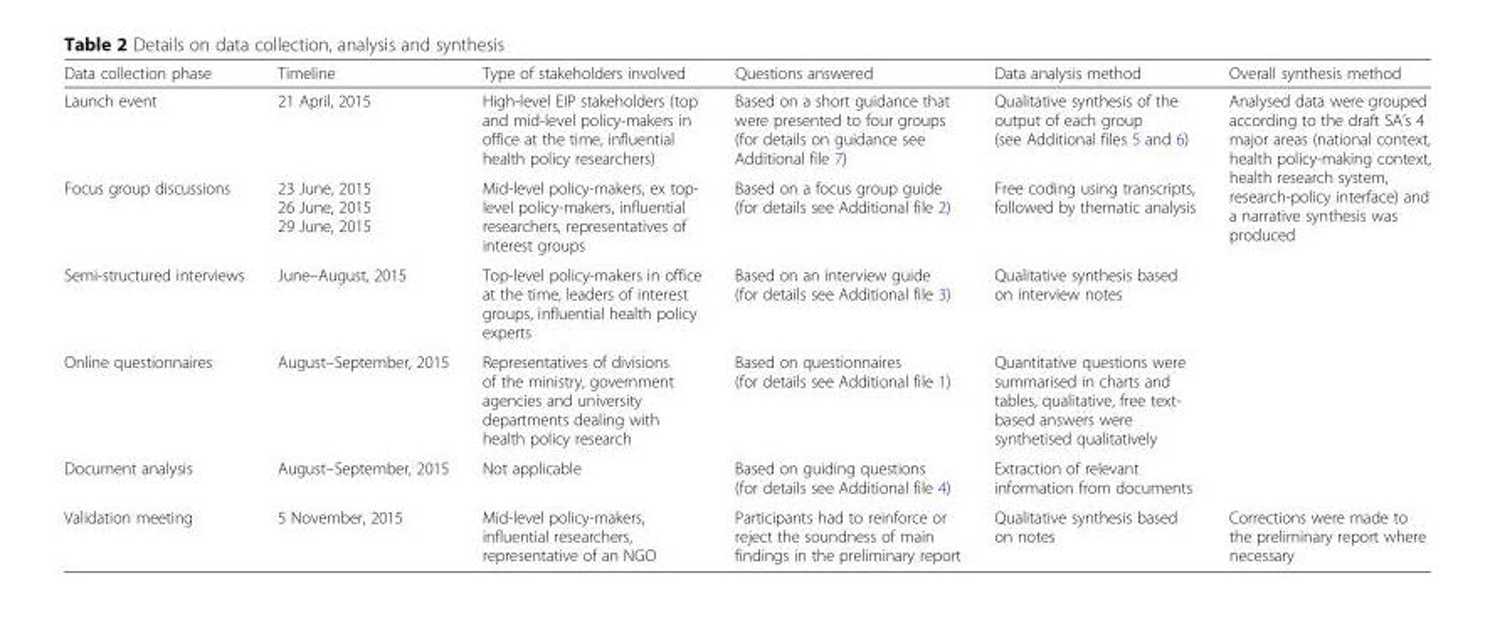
<table><thead><tr><td>Data collection phase</td><td>Timeline</td><td>Type of stakeholders involved</td><td>Questions answered</td><td>Data analysis method</td><td>Overall synthesis method</td></tr></thead><tbody><tr><td>Launch event</td><td>21 April, 2015</td><td>High-level EIP stakeholders (top and mid-level policy-makers in office at the time, influential health policy researchers)</td><td>Based on a short guidance that were presented to four groups (for details on guidance see Additional file 7)</td><td>Qualitative synthesis of the output of each group (see Additional files 5 and 6)</td><td rowspan="5">Analysed data were grouped according to the draft SA’s 4 major areas (national context, health policy-making context, health research system, research-policy interface) and a narrative synthesis was produced</td></tr><tr><td>Focus group discussions</td><td>23 June, 2015 26 June, 2015 29 June, 2015</td><td>Mid-level policy-makers, ex top- level policy-makers, influential researchers, representatives of interest groups</td><td>Based on a focus group guide (for details see Additional file 2)</td><td>Free coding using transcripts, followed by thematic analysis</td></tr><tr><td>Semi-structured interviews</td><td>June–August, 2015</td><td>Top-level policy-makers in office at the time, leaders of interest groups, influential health policy experts</td><td>Based on an interview guide (for details see Additional file 3)</td><td>Qualitative synthesis based on interview notes</td></tr><tr><td>Online questionnaires</td><td>August–September, 2015</td><td>Representatives of divisions of the ministry, government agencies and university departments dealing with health policy research</td><td>Based on questionnaires (for details see Additional file 1)</td><td>Quantitative questions were summarised in charts and tables, qualitative, free text- based answers were synthetised qualitatively</td></tr><tr><td>Document analysis</td><td>August–September, 2015</td><td>Not applicable</td><td>Based on guiding questions (for details see Additional file 4)</td><td>Extraction of relevant information from documents</td></tr><tr><td>Validation meeting</td><td>5 November, 2015</td><td>Mid-level policy-makers, influential researchers, representative of an NGO</td><td>Participants had to reinforce or reject the soundness of main findings in the preliminary report</td><td>Qualitative synthesis based on notes</td><td>Corrections were made to the preliminary report where necessary</td></tr></tbody></table>